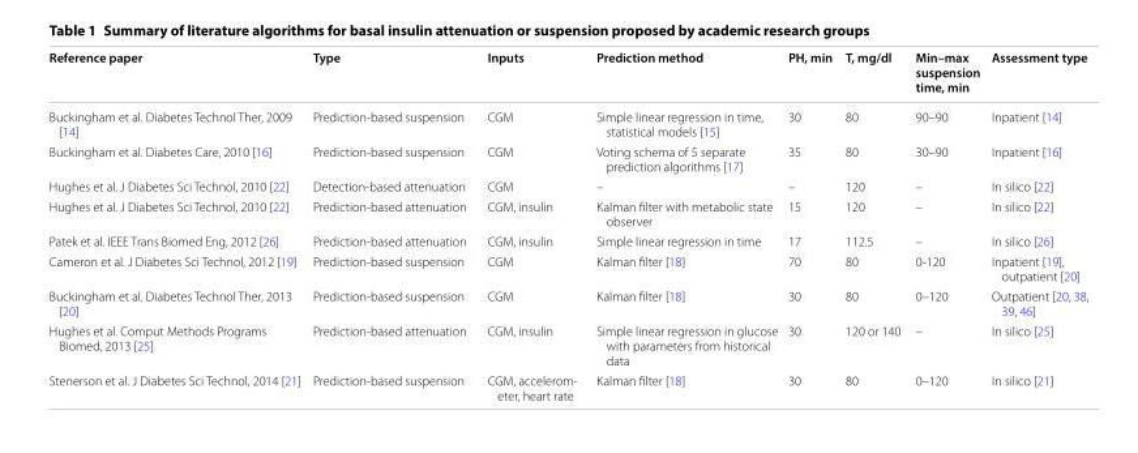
<table><thead><tr><td>Reference paper</td><td>Type</td><td>Inputs</td><td>Prediction method</td><td>PH, min</td><td>T, mg/dl</td><td>Min–max suspension time, min</td><td>Assessment type</td></tr></thead><tbody><tr><td>Buckingham et al. Diabetes Technol Ther, 2009 [14]</td><td>Prediction-based suspension</td><td>CGM</td><td>Simple linear regression in time, statistical models [15]</td><td>30</td><td>80</td><td>90–90</td><td>Inpatient [14]</td></tr><tr><td>Buckingham et al. Diabetes Care, 2010 [16]</td><td>Prediction-based suspension</td><td>CGM</td><td>Voting schema of 5 separate prediction algorithms [17]</td><td>35</td><td>80</td><td>30–90</td><td>Inpatient [16]</td></tr><tr><td>Hughes et al. J Diabetes Sci Technol, 2010 [22]</td><td>Detection-based attenuation</td><td>CGM</td><td>–</td><td>–</td><td>120</td><td>–</td><td>In silico [22]</td></tr><tr><td>Hughes et al. J Diabetes Sci Technol, 2010 [22]</td><td>Prediction-based attenuation</td><td>CGM, insulin</td><td>Kalman filter with metabolic state observer</td><td>15</td><td>120</td><td>–</td><td>In silico [22]</td></tr><tr><td>Patek et al. IEEE Trans Biomed Eng, 2012 [26]</td><td>Prediction-based attenuation</td><td>CGM, insulin</td><td>Simple linear regression in time</td><td>17</td><td>112.5</td><td>–</td><td>In silico [26]</td></tr><tr><td>Cameron et al. J Diabetes Sci Technol, 2012 [19]</td><td>Prediction-based suspension</td><td>CGM</td><td>Kalman filter [18]</td><td>70</td><td>80</td><td>0-120</td><td>Inpatient [19], outpatient [20]</td></tr><tr><td>Buckingham et al. Diabetes Technol Ther, 2013 [20]</td><td>Prediction-based suspension</td><td>CGM</td><td>Kalman filter [18]</td><td>30</td><td>80</td><td>0–120</td><td>Outpatient [20, 38, 39, 46]</td></tr><tr><td>Hughes et al. Comput Methods Programs Biomed, 2013 [25]</td><td>Prediction-based attenuation</td><td>CGM, insulin</td><td>Simple linear regression in glucose with parameters from historical data</td><td>30</td><td>120 or 140</td><td>–</td><td>In silico [25]</td></tr><tr><td>Stenerson et al. J Diabetes Sci Technol, 2014 [21]</td><td>Prediction-based suspension</td><td>CGM, accelerom- eter, heart rate</td><td>Kalman filter [18]</td><td>30</td><td>80</td><td>0–120</td><td>In silico [21]</td></tr></tbody></table>